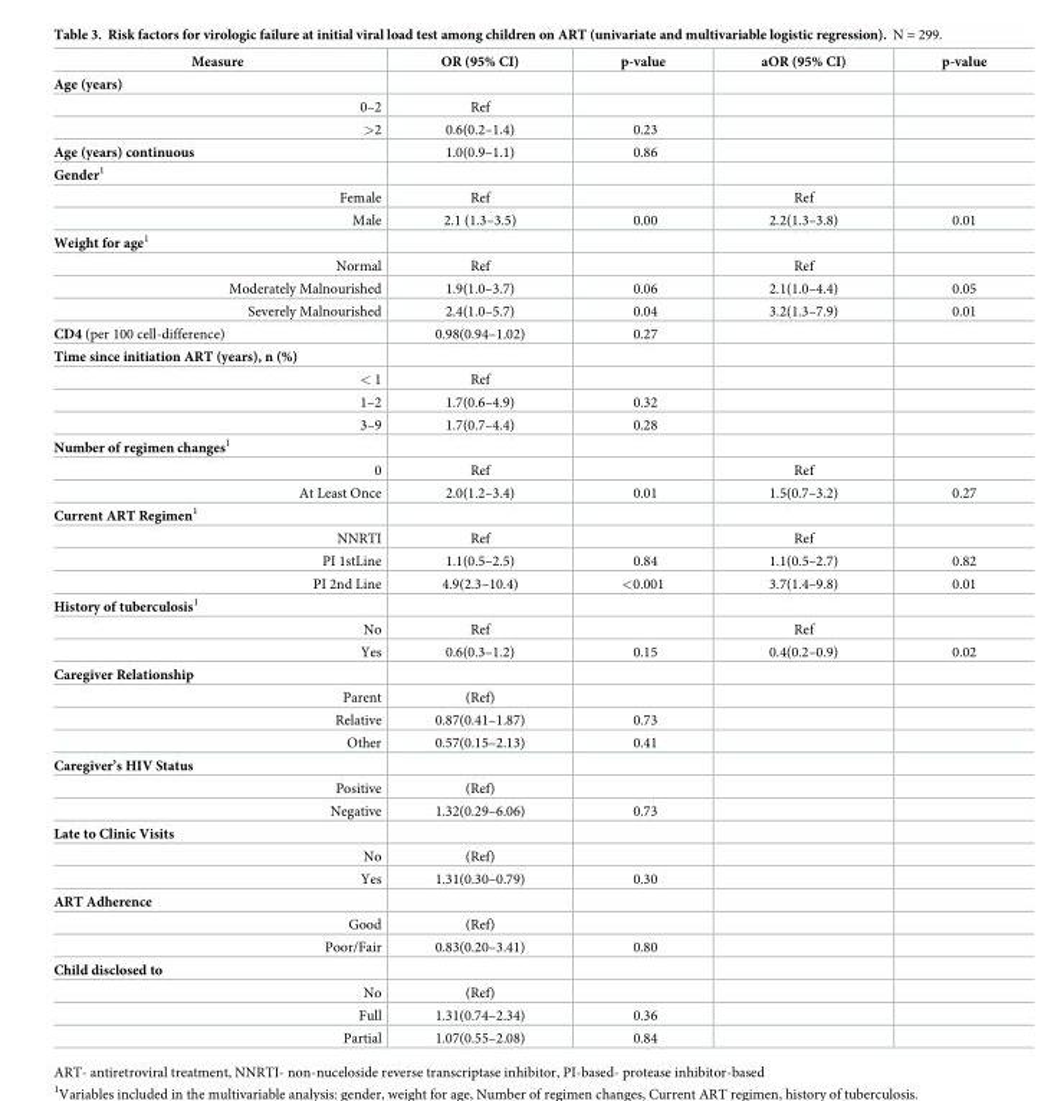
<table><thead><tr><td>Measure</td><td>OR (95% CI)</td><td>p-value</td><td>aOR (95% CI)</td><td>p-value</td></tr></thead><tbody><tr><td colspan="5">Age (years)</td></tr><tr><td>0–2</td><td>Ref</td><td></td><td></td><td></td></tr><tr><td>&gt;2</td><td>0.6(0.2–1.4)</td><td>0.23</td><td></td><td></td></tr><tr><td>Age (years) continuous</td><td>1.0(0.9–1.1)</td><td>0.86</td><td></td><td></td></tr><tr><td colspan="5">Gender<sup>1</sup></td></tr><tr><td>Female</td><td>Ref</td><td></td><td>Ref</td><td></td></tr><tr><td>Male</td><td>2.1 (1.3–3.5)</td><td>0.00</td><td>2.2(1.3–3.8)</td><td>0.01</td></tr><tr><td colspan="5">Weight for age<sup>1</sup></td></tr><tr><td>Normal</td><td>Ref</td><td></td><td>Ref</td><td></td></tr><tr><td>Moderately Malnourished</td><td>1.9(1.0–3.7)</td><td>0.06</td><td>2.1(1.0–4.4)</td><td>0.05</td></tr><tr><td>Severely Malnourished</td><td>2.4(1.0–5.7)</td><td>0.04</td><td>3.2(1.3–7.9)</td><td>0.01</td></tr><tr><td>CD4 (per 100 cell-difference)</td><td>0.98(0.94–1.02)</td><td>0.27</td><td></td><td></td></tr><tr><td colspan="5">Time since initiation ART (years), n (%)</td></tr><tr><td>&lt; 1</td><td>Ref</td><td></td><td></td><td></td></tr><tr><td>1–2</td><td>1.7(0.6–4.9)</td><td>0.32</td><td></td><td></td></tr><tr><td>3–9</td><td>1.7(0.7–4.4)</td><td>0.28</td><td></td><td></td></tr><tr><td colspan="5">Number of regimen changes<sup>1</sup></td></tr><tr><td>0</td><td>Ref</td><td></td><td>Ref</td><td></td></tr><tr><td>At Least Once</td><td>2.0(1.2–3.4)</td><td>0.01</td><td>1.5(0.7–3.2)</td><td>0.27</td></tr><tr><td colspan="5">Current ART Regimen<sup>1</sup></td></tr><tr><td>NNRTI</td><td>Ref</td><td></td><td>Ref</td><td></td></tr><tr><td>PI 1stLine</td><td>1.1(0.5–2.5)</td><td>0.84</td><td>1.1(0.5–2.7)</td><td>0.82</td></tr><tr><td>PI 2nd Line</td><td>4.9(2.3–10.4)</td><td>&lt;0.001</td><td>3.7(1.4–9.8)</td><td>0.01</td></tr><tr><td colspan="5">History of tuberculosis<sup>1</sup></td></tr><tr><td>No</td><td>Ref</td><td></td><td>Ref</td><td></td></tr><tr><td>Yes</td><td>0.6(0.3–1.2)</td><td>0.15</td><td>0.4(0.2–0.9)</td><td>0.02</td></tr><tr><td colspan="5">Caregiver Relationship</td></tr><tr><td>Parent</td><td>(Ref)</td><td></td><td></td><td></td></tr><tr><td>Relative</td><td>0.87(0.41–1.87)</td><td>0.73</td><td></td><td></td></tr><tr><td>Other</td><td>0.57(0.15–2.13)</td><td>0.41</td><td></td><td></td></tr><tr><td colspan="5">Caregiver’s HIV Status</td></tr><tr><td>Positive</td><td>(Ref)</td><td></td><td></td><td></td></tr><tr><td>Negative</td><td>1.32(0.29–6.06)</td><td>0.73</td><td></td><td></td></tr><tr><td colspan="5">Late to Clinic Visits</td></tr><tr><td>No</td><td>(Ref)</td><td></td><td></td><td></td></tr><tr><td>Yes</td><td>1.31(0.30–0.79)</td><td>0.30</td><td></td><td></td></tr><tr><td colspan="5">ART Adherence</td></tr><tr><td>Good</td><td>(Ref)</td><td></td><td></td><td></td></tr><tr><td>Poor/Fair</td><td>0.83(0.20–3.41)</td><td>0.80</td><td></td><td></td></tr><tr><td colspan="5">Child disclosed to</td></tr><tr><td>No</td><td>(Ref)</td><td></td><td></td><td></td></tr><tr><td>Full</td><td>1.31(0.74–2.34)</td><td>0.36</td><td></td><td></td></tr><tr><td>Partial</td><td>1.07(0.55–2.08)</td><td>0.84</td><td></td><td></td></tr></tbody></table>